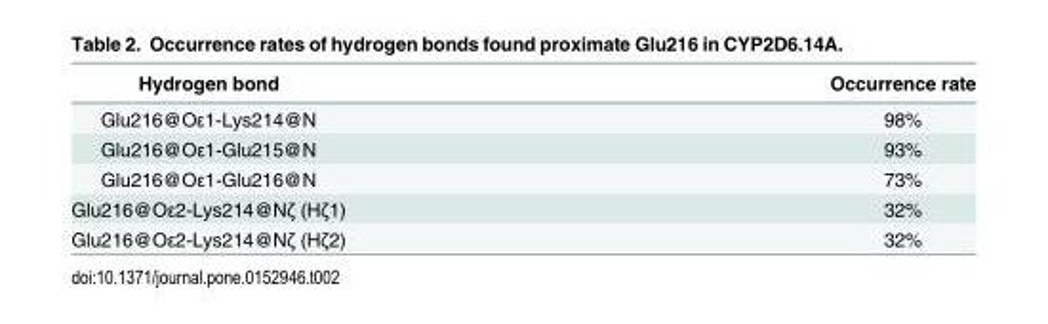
<table><thead><tr><td>Hydrogen bond</td><td>Occurrence rate</td></tr></thead><tbody><tr><td>Glu216@Oε1-Lys214@N</td><td>98%</td></tr><tr><td>Glu216@Oε1-Glu215@N</td><td>93%</td></tr><tr><td>Glu216@Oε1-Glu216@N</td><td>73%</td></tr><tr><td>Glu216@Oε2-Lys214@Nζ (Hζ1)</td><td>32%</td></tr><tr><td>Glu216@Oε2-Lys214@Nζ (Hζ2)</td><td>32%</td></tr></tbody></table>